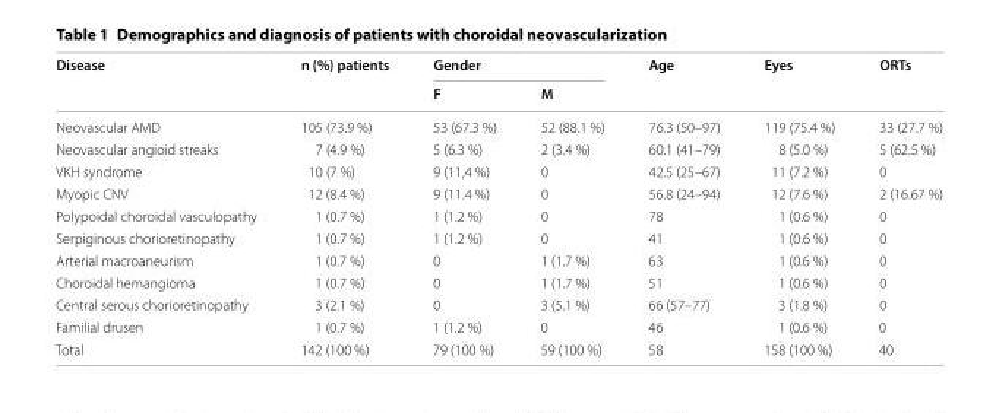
<table><thead><tr><td rowspan="2">Disease</td><td rowspan="2">n (%) patients</td><td colspan="2">Gender</td><td rowspan="2">Age</td><td rowspan="2">Eyes</td><td rowspan="2">ORTs</td></tr><tr><td>F</td><td>M</td></tr></thead><tbody><tr><td>Neovascular AMD</td><td>105 (73.9 %)</td><td>53 (67.3 %)</td><td>52 (88.1 %)</td><td>76.3 (50–97)</td><td>119 (75.4 %)</td><td>33 (27.7 %)</td></tr><tr><td>Neovascular angioid streaks</td><td>7 (4.9 %)</td><td>5 (6.3 %)</td><td>2 (3.4 %)</td><td>60.1 (41–79)</td><td>8 (5.0 %)</td><td>5 (62.5 %)</td></tr><tr><td>VKH syndrome</td><td>10 (7 %)</td><td>9 (11,4 %)</td><td>0</td><td>42.5 (25–67)</td><td>11 (7.2 %)</td><td>0</td></tr><tr><td>Myopic CNV</td><td>12 (8.4 %)</td><td>9 (11.4 %)</td><td>0</td><td>56.8 (24–94)</td><td>12 (7.6 %)</td><td>2 (16.67 %)</td></tr><tr><td>Polypoidal choroidal vasculopathy</td><td>1 (0.7 %)</td><td>1 (1.2 %)</td><td>0</td><td>78</td><td>1 (0.6 %)</td><td>0</td></tr><tr><td>Serpiginous chorioretinopathy</td><td>1 (0.7 %)</td><td>1 (1.2 %)</td><td>0</td><td>41</td><td>1 (0.6 %)</td><td>0</td></tr><tr><td>Arterial macroaneurism</td><td>1 (0.7 %)</td><td>0</td><td>1 (1.7 %)</td><td>63</td><td>1 (0.6 %)</td><td>0</td></tr><tr><td>Choroidal hemangioma</td><td>1 (0.7 %)</td><td>0</td><td>1 (1.7 %)</td><td>51</td><td>1 (0.6 %)</td><td>0</td></tr><tr><td>Central serous chorioretinopathy</td><td>3 (2.1 %)</td><td>0</td><td>3 (5.1 %)</td><td>66 (57–77)</td><td>3 (1.8 %)</td><td>0</td></tr><tr><td>Familial drusen</td><td>1 (0.7 %)</td><td>1 (1.2 %)</td><td>0</td><td>46</td><td>1 (0.6 %)</td><td>0</td></tr><tr><td>Total</td><td>142 (100 %)</td><td>79 (100 %)</td><td>59 (100 %)</td><td>58</td><td>158 (100 %)</td><td>40</td></tr></tbody></table>